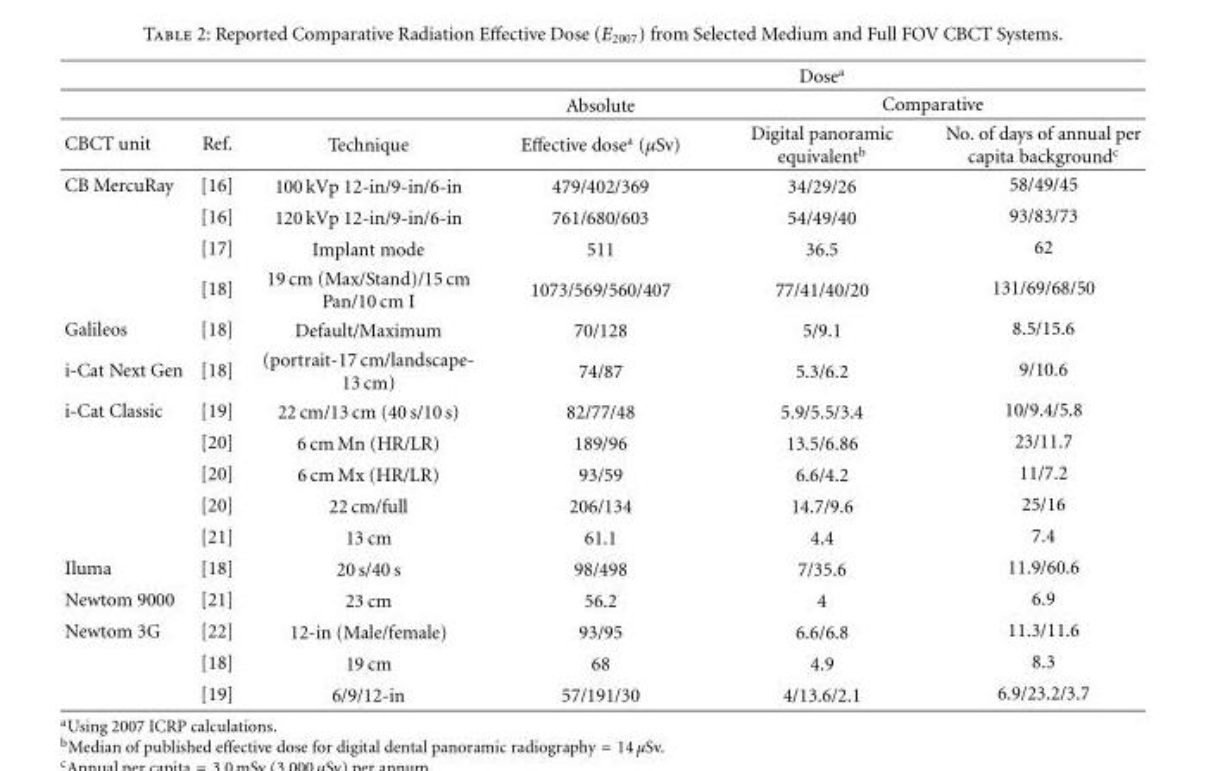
<table><thead><tr><td></td><td></td><td></td><td></td><td>Dose<sup>a</sup></td><td></td></tr></thead><tbody><tr><td></td><td></td><td></td><td>Absolute</td><td colspan="2">Comparative</td></tr><tr><td>CBCT unit</td><td>Ref.</td><td>Technique</td><td>Effective dose<sup>a</sup> (μSv)</td><td>Digital panoramic equivalent<sup>b</sup></td><td>No. of days of annual per capita background<sup>c</sup></td></tr><tr><td rowspan="4">CB MercuRay</td><td>[16]</td><td>100 kVp 12-in/9-in/6-in</td><td>479/402/369</td><td>34/29/26</td><td>58/49/45</td></tr><tr><td>[16]</td><td>120 kVp 12-in/9-in/6-in</td><td>761/680/603</td><td>54/49/40</td><td>93/83/73</td></tr><tr><td>[17]</td><td>Implant mode</td><td>511</td><td>36.5</td><td>62</td></tr><tr><td>[18]</td><td>19 cm (Max/Stand)/15 cm Pan/10 cm I</td><td>1073/569/560/407</td><td>77/41/40/20</td><td>131/69/68/50</td></tr><tr><td>Galileos</td><td>[18]</td><td>Default/Maximum</td><td>70/128</td><td>5/9.1</td><td>8.5/15.6</td></tr><tr><td>i-Cat Next Gen</td><td>[18]</td><td>(portrait-17 cm/landscape- 13 cm)</td><td>74/87</td><td>5.3/6.2</td><td>9/10.6</td></tr><tr><td rowspan="5">i-Cat Classic</td><td>[19]</td><td>22 cm/13 cm (40 s/10 s)</td><td>82/77/48</td><td>5.9/5.5/3.4</td><td>10/9.4/5.8</td></tr><tr><td>[20]</td><td>6 cm Mn (HR/LR)</td><td>189/96</td><td>13.5/6.86</td><td>23/11.7</td></tr><tr><td>[20]</td><td>6 cm Mx (HR/LR)</td><td>93/59</td><td>6.6/4.2</td><td>11/7.2</td></tr><tr><td>[20]</td><td>22 cm/full</td><td>206/134</td><td>14.7/9.6</td><td>25/16</td></tr><tr><td>[21]</td><td>13 cm</td><td>61.1</td><td>4.4</td><td>7.4</td></tr><tr><td>Iluma</td><td>[18]</td><td>20 s/40 s</td><td>98/498</td><td>7/35.6</td><td>11.9/60.6</td></tr><tr><td>Newtom 9000</td><td>[21]</td><td>23 cm</td><td>56.2</td><td>4</td><td>6.9</td></tr><tr><td rowspan="3">Newtom 3G</td><td>[22]</td><td>12-in (Male/female)</td><td>93/95</td><td>6.6/6.8</td><td>11.3/11.6</td></tr><tr><td>[18]</td><td>19 cm</td><td>68</td><td>4.9</td><td>8.3</td></tr><tr><td>[19]</td><td>6/9/12-in</td><td>57/191/30</td><td>4/13.6/2.1</td><td>6.9/23.2/3.7</td></tr></tbody></table>